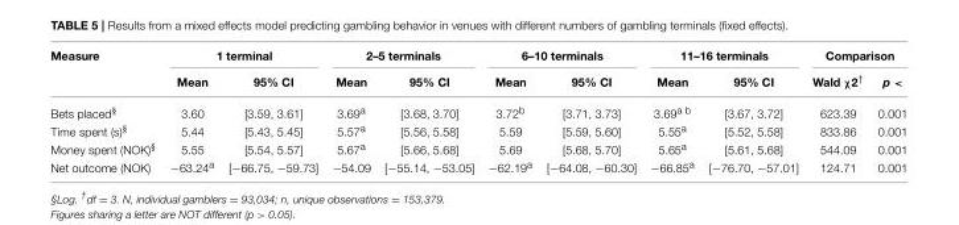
<table><thead><tr><td rowspan="2">Measure</td><td colspan="2">1 terminal</td><td colspan="2">2–5 terminals</td><td colspan="2">6–10 terminals</td><td colspan="2">11–16 terminals</td><td colspan="2">Comparison</td></tr><tr><td>Mean</td><td>95% CI</td><td>Mean</td><td>95% CI</td><td>Mean</td><td>95% CI</td><td>Mean</td><td>95% CI</td><td>Wald χ2<sup>†</sup></td><td>p &lt;</td></tr></thead><tbody><tr><td>Bets placed<sup>§</sup></td><td>3.60</td><td>[3.59, 3.61]</td><td>3.69<sup>a</sup></td><td>[3.68, 3.70]</td><td>3.72<sup>b</sup></td><td>[3.71, 3.73]</td><td>3.69<sup>a b</sup></td><td>[3.67, 3.72]</td><td>623.39</td><td>0.001</td></tr><tr><td>Time spent (s)<sup>§</sup></td><td>5.44</td><td>[5.43, 5.45]</td><td>5.57<sup>a</sup></td><td>[5.56, 5.58]</td><td>5.59</td><td>[5.59, 5.60]</td><td>5.55<sup>a</sup></td><td>[5.52, 5.58]</td><td>833.86</td><td>0.001</td></tr><tr><td>Money spent (NOK)<sup>§</sup></td><td>5.55</td><td>[5.54, 5.57]</td><td>5.67<sup>a</sup></td><td>[5.66, 5.68]</td><td>5.69</td><td>[5.68, 5.70]</td><td>5.65<sup>a</sup></td><td>[5.61, 5.68]</td><td>544.09</td><td>0.001</td></tr><tr><td>Net outcome (NOK)</td><td>−63.24<sup>a</sup></td><td>[−66.75, −59.73]</td><td>−54.09</td><td>[−55.14, −53.05]</td><td>−62.19<sup>a</sup></td><td>[−64.08, −60.30]</td><td>−66.85<sup>a</sup></td><td>[−76.70, −57.01]</td><td>124.71</td><td>0.001</td></tr></tbody></table>